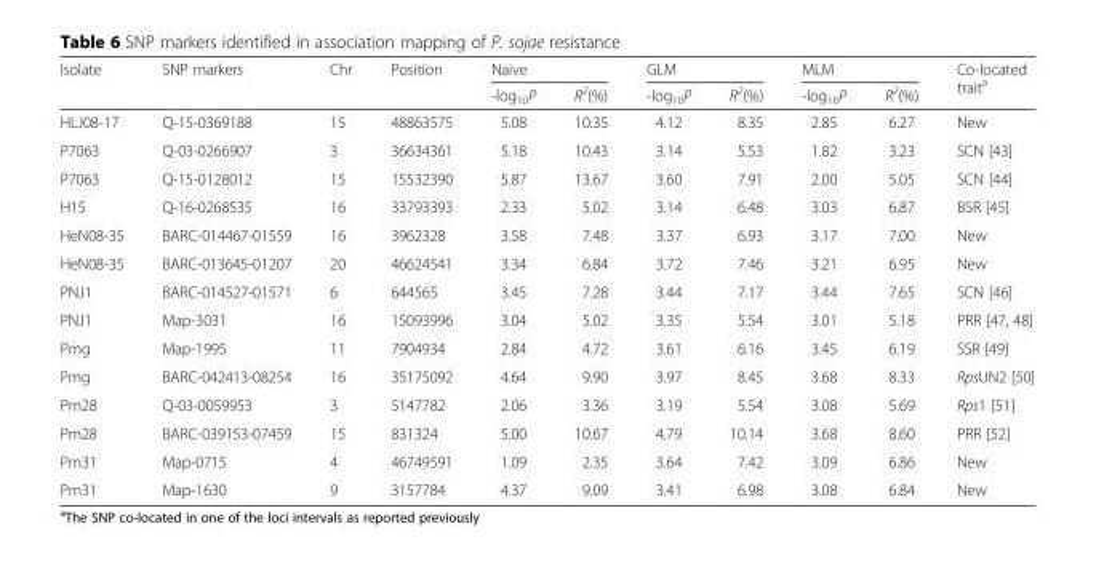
<table><thead><tr><td rowspan="2">Isolate</td><td rowspan="2">SNP markers</td><td rowspan="2">Chr</td><td rowspan="2">Position</td><td colspan="2">Naive</td><td colspan="2">GLM</td><td colspan="2">MLM</td><td rowspan="2">Co-located trait<sup>a</sup></td></tr><tr><td>-log<sub>10</sub>P</td><td>R<sup>2</sup>(%)</td><td>-log<sub>10</sub>P</td><td>R<sup>2</sup>(%)</td><td>-log<sub>10</sub>P</td><td>R<sup>2</sup>(%)</td></tr></thead><tbody><tr><td>HLJ08-17</td><td>Q-15-0369188</td><td>15</td><td>48863575</td><td>5.08</td><td>10.35</td><td>4.12</td><td>8.35</td><td>2.85</td><td>6.27</td><td>New</td></tr><tr><td>P7063</td><td>Q-03-0266907</td><td>3</td><td>36634361</td><td>5.18</td><td>10.43</td><td>3.14</td><td>5.53</td><td>1.82</td><td>3.23</td><td>SCN [43]</td></tr><tr><td>P7063</td><td>Q-15-0128012</td><td>15</td><td>15532390</td><td>5.87</td><td>13.67</td><td>3.60</td><td>7.91</td><td>2.00</td><td>5.05</td><td>SCN [44]</td></tr><tr><td>H15</td><td>Q-16-0268535</td><td>16</td><td>33793393</td><td>2.33</td><td>5.02</td><td>3.14</td><td>6.48</td><td>3.03</td><td>6.87</td><td>BSR [45]</td></tr><tr><td>HeN08-35</td><td>BARC-014467-01559</td><td>16</td><td>3962328</td><td>3.58</td><td>7.48</td><td>3.37</td><td>6.93</td><td>3.17</td><td>7.00</td><td>New</td></tr><tr><td>HeN08-35</td><td>BARC-013645-01207</td><td>20</td><td>46624541</td><td>3.34</td><td>6.84</td><td>3.72</td><td>7.46</td><td>3.21</td><td>6.95</td><td>New</td></tr><tr><td>PNJ1</td><td>BARC-014527-01571</td><td>6</td><td>644565</td><td>3.45</td><td>7.28</td><td>3.44</td><td>7.17</td><td>3.44</td><td>7.65</td><td>SCN [46]</td></tr><tr><td>PNJ1</td><td>Map-3031</td><td>16</td><td>15093996</td><td>3.04</td><td>5.02</td><td>3.35</td><td>5.54</td><td>3.01</td><td>5.18</td><td>PRR [47, 48]</td></tr><tr><td>Pmg</td><td>Map-1995</td><td>11</td><td>7904934</td><td>2.84</td><td>4.72</td><td>3.61</td><td>6.16</td><td>3.45</td><td>6.19</td><td>SSR [49]</td></tr><tr><td>Pmg</td><td>BARC-042413-08254</td><td>16</td><td>35175092</td><td>4.64</td><td>9.90</td><td>3.97</td><td>8.45</td><td>3.68</td><td>8.33</td><td>RpsUN2 [50]</td></tr><tr><td>Pm28</td><td>Q-03-0059953</td><td>3</td><td>5147782</td><td>2.06</td><td>3.36</td><td>3.19</td><td>5.54</td><td>3.08</td><td>5.69</td><td>Rps1 [51]</td></tr><tr><td>Pm28</td><td>BARC-039153-07459</td><td>15</td><td>831324</td><td>5.00</td><td>10.67</td><td>4.79</td><td>10.14</td><td>3.68</td><td>8.60</td><td>PRR [52]</td></tr><tr><td>Pm31</td><td>Map-0715</td><td>4</td><td>46749591</td><td>1.09</td><td>2.35</td><td>3.64</td><td>7.42</td><td>3.09</td><td>6.86</td><td>New</td></tr><tr><td>Pm31</td><td>Map-1630</td><td>9</td><td>3157784</td><td>4.37</td><td>9.09</td><td>3.41</td><td>6.98</td><td>3.08</td><td>6.84</td><td>New</td></tr></tbody></table>